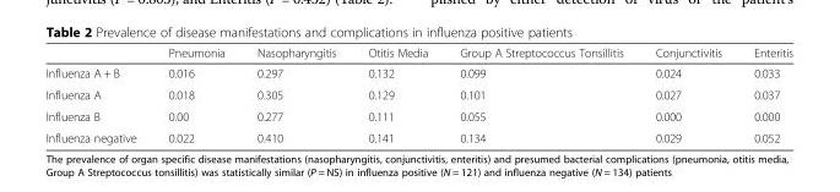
<table><thead><tr><td></td><td>Pneumonia</td><td>Nasopharyngitis</td><td>Otitis Media</td><td>Group A Streptococcus Tonsillitis</td><td>Conjunctivitis</td><td>Enteritis</td></tr></thead><tbody><tr><td>Influenza A + B</td><td>0.016</td><td>0.297</td><td>0.132</td><td>0.099</td><td>0.024</td><td>0.033</td></tr><tr><td>Influenza A</td><td>0.018</td><td>0.305</td><td>0.129</td><td>0.101</td><td>0.027</td><td>0.037</td></tr><tr><td>Influenza B</td><td>0.00</td><td>0.277</td><td>0.111</td><td>0.055</td><td>0.000</td><td>0.000</td></tr><tr><td>Influenza negative</td><td>0.022</td><td>0.410</td><td>0.141</td><td>0.134</td><td>0.029</td><td>0.052</td></tr></tbody></table>